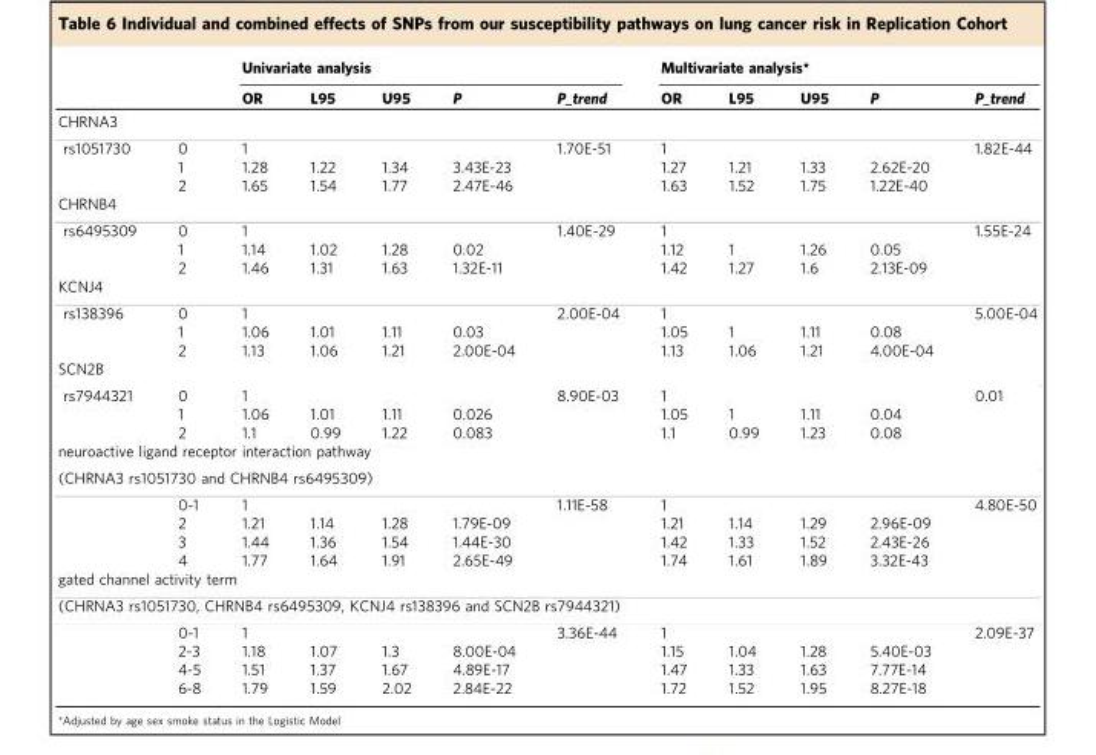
<table><thead><tr><td rowspan="2"></td><td rowspan="2"></td><td colspan="5">Univariate analysis</td><td colspan="5">Multivariate analysis*</td></tr><tr><td>OR</td><td>L95</td><td>U95</td><td>P</td><td>P_trend</td><td>OR</td><td>L95</td><td>U95</td><td>P</td><td>P_trend</td></tr></thead><tbody><tr><td colspan="12">CHRNA3</td></tr><tr><td rowspan="3">rs1051730</td><td>0</td><td>1</td><td></td><td></td><td></td><td>1.70E-51</td><td>1</td><td></td><td></td><td></td><td>1.82E-44</td></tr><tr><td>1</td><td>1.28</td><td>1.22</td><td>1.34</td><td>3.43E-23</td><td></td><td>1.27</td><td>1.21</td><td>1.33</td><td>2.62E-20</td><td></td></tr><tr><td>2</td><td>1.65</td><td>1.54</td><td>1.77</td><td>2.47E-46</td><td></td><td>1.63</td><td>1.52</td><td>1.75</td><td>1.22E-40</td><td></td></tr><tr><td colspan="12">CHRNB4</td></tr><tr><td rowspan="3">rs6495309</td><td>0</td><td>1</td><td></td><td></td><td></td><td>1.40E-29</td><td>1</td><td></td><td></td><td></td><td>1.55E-24</td></tr><tr><td>1</td><td>1.14</td><td>1.02</td><td>1.28</td><td>0.02</td><td></td><td>1.12</td><td>1</td><td>1.26</td><td>0.05</td><td></td></tr><tr><td>2</td><td>1.46</td><td>1.31</td><td>1.63</td><td>1.32E-11</td><td></td><td>1.42</td><td>1.27</td><td>1.6</td><td>2.13E-09</td><td></td></tr><tr><td colspan="12">KCNJ4</td></tr><tr><td rowspan="3">rs138396</td><td>0</td><td>1</td><td></td><td></td><td></td><td>2.00E-04</td><td>1</td><td></td><td></td><td></td><td>5.00E-04</td></tr><tr><td>1</td><td>1.06</td><td>1.01</td><td>1.11</td><td>0.03</td><td></td><td>1.05</td><td>1</td><td>1.11</td><td>0.08</td><td></td></tr><tr><td>2</td><td>1.13</td><td>1.06</td><td>1.21</td><td>2.00E-04</td><td></td><td>1.13</td><td>1.06</td><td>1.21</td><td>4.00E-04</td><td></td></tr><tr><td colspan="12">SCN2B</td></tr><tr><td rowspan="3">rs7944321</td><td>0</td><td>1</td><td></td><td></td><td></td><td>8.90E-03</td><td>1</td><td></td><td></td><td></td><td>0.01</td></tr><tr><td>1</td><td>1.06</td><td>1.01</td><td>1.11</td><td>0.026</td><td></td><td>1.05</td><td>1</td><td>1.11</td><td>0.04</td><td></td></tr><tr><td>2</td><td>1.1</td><td>0.99</td><td>1.22</td><td>0.083</td><td></td><td>1.1</td><td>0.99</td><td>1.23</td><td>0.08</td><td></td></tr><tr><td colspan="12">neuroactive ligand receptor interaction pathway</td></tr><tr><td colspan="12">(CHRNA3 rs1051730 and CHRNB4 rs6495309)</td></tr><tr><td></td><td>0-1</td><td>1</td><td></td><td></td><td></td><td>1.11E-58</td><td>1</td><td></td><td></td><td></td><td>4.80E-50</td></tr><tr><td></td><td>2</td><td>1.21</td><td>1.14</td><td>1.28</td><td>1.79E-09</td><td></td><td>1.21</td><td>1.14</td><td>1.29</td><td>2.96E-09</td><td></td></tr><tr><td></td><td>3</td><td>1.44</td><td>1.36</td><td>1.54</td><td>1.44E-30</td><td></td><td>1.42</td><td>1.33</td><td>1.52</td><td>2.43E-26</td><td></td></tr><tr><td></td><td>4</td><td>1.77</td><td>1.64</td><td>1.91</td><td>2.65E-49</td><td></td><td>1.74</td><td>1.61</td><td>1.89</td><td>3.32E-43</td><td></td></tr><tr><td colspan="12">gated channel activity term</td></tr><tr><td colspan="12">(CHRNA3 rs1051730, CHRNB4 rs6495309, KCNJ4 rs138396 and SCN2B rs7944321)</td></tr><tr><td></td><td>0-1</td><td>1</td><td></td><td></td><td></td><td>3.36E-44</td><td>1</td><td></td><td></td><td></td><td>2.09E-37</td></tr><tr><td></td><td>2-3</td><td>1.18</td><td>1.07</td><td>1.3</td><td>8.00E-04</td><td></td><td>1.15</td><td>1.04</td><td>1.28</td><td>5.40E-03</td><td></td></tr><tr><td></td><td>4-5</td><td>1.51</td><td>1.37</td><td>1.67</td><td>4.89E-17</td><td></td><td>1.47</td><td>1.33</td><td>1.63</td><td>7.77E-14</td><td></td></tr><tr><td></td><td>6-8</td><td>1.79</td><td>1.59</td><td>2.02</td><td>2.84E-22</td><td></td><td>1.72</td><td>1.52</td><td>1.95</td><td>8.27E-18</td><td></td></tr></tbody></table>